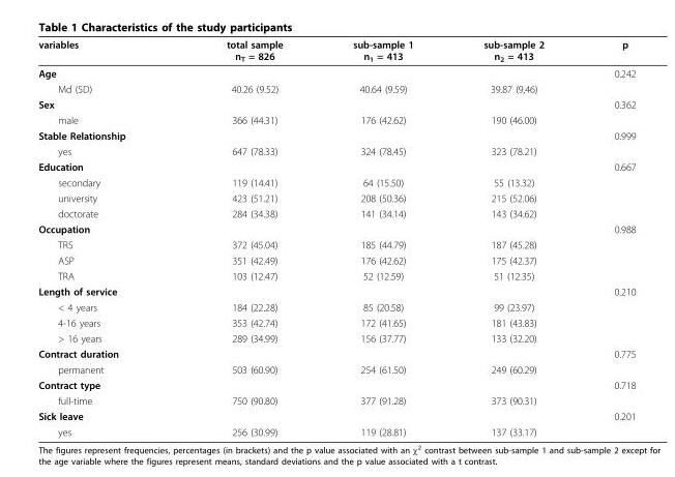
<table><thead><tr><td>variables</td><td>total sample n<sub>T</sub> = 826</td><td>sub-sample 1 n<sub>1</sub> = 413</td><td>sub-sample 2 n<sub>2</sub> = 413</td><td>p</td></tr></thead><tbody><tr><td>Age</td><td></td><td></td><td></td><td>0.242</td></tr><tr><td>Md (SD)</td><td>40.26 (9.52)</td><td>40.64 (9.59)</td><td>39.87 (9,46)</td><td></td></tr><tr><td>Sex</td><td></td><td></td><td></td><td>0.362</td></tr><tr><td>male</td><td>366 (44.31)</td><td>176 (42.62)</td><td>190 (46.00)</td><td></td></tr><tr><td>Stable Relationship</td><td></td><td></td><td></td><td>0.999</td></tr><tr><td>yes</td><td>647 (78.33)</td><td>324 (78.45)</td><td>323 (78.21)</td><td></td></tr><tr><td>Education</td><td></td><td></td><td></td><td>0.667</td></tr><tr><td>secondary</td><td>119 (14.41)</td><td>64 (15.50)</td><td>55 (13.32)</td><td></td></tr><tr><td>university</td><td>423 (51.21)</td><td>208 (50.36)</td><td>215 (52.06)</td><td></td></tr><tr><td>doctorate</td><td>284 (34.38)</td><td>141 (34.14)</td><td>143 (34.62)</td><td></td></tr><tr><td>Occupation</td><td></td><td></td><td></td><td>0.988</td></tr><tr><td>TRS</td><td>372 (45.04)</td><td>185 (44.79)</td><td>187 (45.28)</td><td></td></tr><tr><td>ASP</td><td>351 (42.49)</td><td>176 (42.62)</td><td>175 (42.37)</td><td></td></tr><tr><td>TRA</td><td>103 (12.47)</td><td>52 (12.59)</td><td>51 (12.35)</td><td></td></tr><tr><td>Length of service</td><td></td><td></td><td></td><td>0.210</td></tr><tr><td>&lt; 4 years</td><td>184 (22.28)</td><td>85 (20.58)</td><td>99 (23.97)</td><td></td></tr><tr><td>4-16 years</td><td>353 (42.74)</td><td>172 (41.65)</td><td>181 (43.83)</td><td></td></tr><tr><td>&gt; 16 years</td><td>289 (34.99)</td><td>156 (37.77)</td><td>133 (32.20)</td><td></td></tr><tr><td>Contract duration</td><td></td><td></td><td></td><td>0.775</td></tr><tr><td>permanent</td><td>503 (60.90)</td><td>254 (61.50)</td><td>249 (60.29)</td><td></td></tr><tr><td>Contract type</td><td></td><td></td><td></td><td>0.718</td></tr><tr><td>full-time</td><td>750 (90.80)</td><td>377 (91.28)</td><td>373 (90.31)</td><td></td></tr><tr><td>Sick leave</td><td></td><td></td><td></td><td>0.201</td></tr><tr><td>yes</td><td>256 (30.99)</td><td>119 (28.81)</td><td>137 (33.17)</td><td></td></tr></tbody></table>